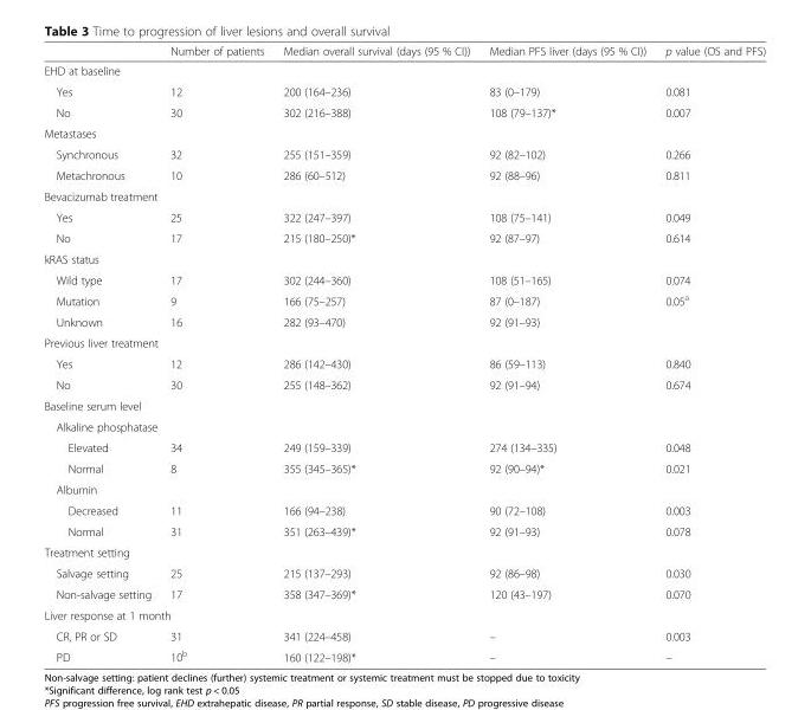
<table><thead><tr><td></td><td>Number of patients</td><td>Median overall survival (days (95 % CI))</td><td>Median PFS liver (days (95 % CI))</td><td>p value (OS and PFS)</td></tr></thead><tbody><tr><td colspan="5">EHD at baseline</td></tr><tr><td>Yes</td><td>12</td><td>200 (164–236)</td><td>83 (0–179)</td><td>0.081</td></tr><tr><td>No</td><td>30</td><td>302 (216–388)</td><td>108 (79–137)*</td><td>0.007</td></tr><tr><td colspan="5">Metastases</td></tr><tr><td>Synchronous</td><td>32</td><td>255 (151–359)</td><td>92 (82–102)</td><td>0.266</td></tr><tr><td>Metachronous</td><td>10</td><td>286 (60–512)</td><td>92 (88–96)</td><td>0.811</td></tr><tr><td colspan="5">Bevacizumab treatment</td></tr><tr><td>Yes</td><td>25</td><td>322 (247–397)</td><td>108 (75–141)</td><td>0.049</td></tr><tr><td>No</td><td>17</td><td>215 (180–250)*</td><td>92 (87–97)</td><td>0.614</td></tr><tr><td colspan="5">kRAS status</td></tr><tr><td>Wild type</td><td>17</td><td>302 (244–360)</td><td>108 (51–165)</td><td>0.074</td></tr><tr><td>Mutation</td><td>9</td><td>166 (75–257)</td><td>87 (0–187)</td><td>0.05<sup>a</sup></td></tr><tr><td>Unknown</td><td>16</td><td>282 (93–470)</td><td>92 (91–93)</td><td></td></tr><tr><td colspan="5">Previous liver treatment</td></tr><tr><td>Yes</td><td>12</td><td>286 (142–430)</td><td>86 (59–113)</td><td>0.840</td></tr><tr><td>No</td><td>30</td><td>255 (148–362)</td><td>92 (91–94)</td><td>0.674</td></tr><tr><td colspan="5">Baseline serum level</td></tr><tr><td colspan="5">Alkaline phosphatase</td></tr><tr><td>Elevated</td><td>34</td><td>249 (159–339)</td><td>274 (134–335)</td><td>0.048</td></tr><tr><td>Normal</td><td>8</td><td>355 (345–365)*</td><td>92 (90–94)*</td><td>0.021</td></tr><tr><td colspan="5">Albumin</td></tr><tr><td>Decreased</td><td>11</td><td>166 (94–238)</td><td>90 (72–108)</td><td>0.003</td></tr><tr><td>Normal</td><td>31</td><td>351 (263–439)*</td><td>92 (91–93)</td><td>0.078</td></tr><tr><td colspan="5">Treatment setting</td></tr><tr><td>Salvage setting</td><td>25</td><td>215 (137–293)</td><td>92 (86–98)</td><td>0.030</td></tr><tr><td>Non-salvage setting</td><td>17</td><td>358 (347–369)*</td><td>120 (43–197)</td><td>0.070</td></tr><tr><td colspan="5">Liver response at 1 month</td></tr><tr><td>CR, PR or SD</td><td>31</td><td>341 (224–458)</td><td>–</td><td>0.003</td></tr><tr><td>PD</td><td>10<sup>b</sup></td><td>160 (122–198)*</td><td>–</td><td>–</td></tr></tbody></table>